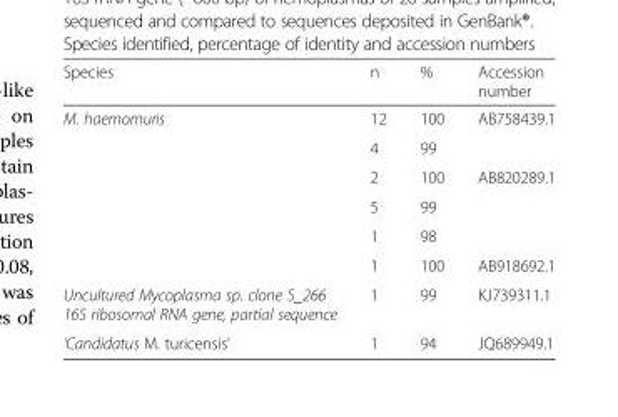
<table><thead><tr><td>Species</td><td>n</td><td>%</td><td>Accession number</td></tr></thead><tbody><tr><td rowspan="6">M. haemomuris</td><td>12</td><td>100</td><td rowspan="2">AB758439.1</td></tr><tr><td>4</td><td>99</td></tr><tr><td>2</td><td>100</td><td rowspan="3">AB820289.1</td></tr><tr><td>5</td><td>99</td></tr><tr><td>1</td><td>98</td></tr><tr><td>1</td><td>100</td><td>AB918692.1</td></tr><tr><td>Uncultured Mycoplasma sp. clone S_266 16S ribosomal RNA gene, partial sequence</td><td>1</td><td>99</td><td>KJ739311.1</td></tr><tr><td>‘Candidatus M. turicensis’</td><td>1</td><td>94</td><td>JQ689949.1</td></tr></tbody></table>